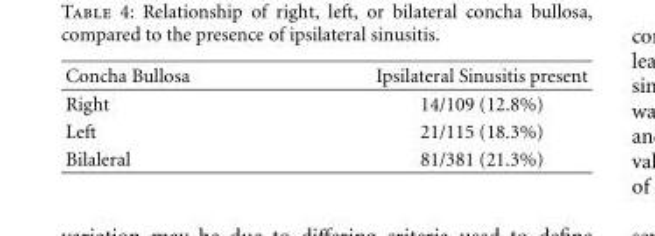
<table><thead><tr><td>Concha Bullosa</td><td>Ipsilateral Sinusitis present</td></tr></thead><tbody><tr><td>Right</td><td>14/109 (12.8%)</td></tr><tr><td>Left</td><td>21/115 (18.3%)</td></tr><tr><td>Bilaleral</td><td>81/381 (21.3%)</td></tr></tbody></table>